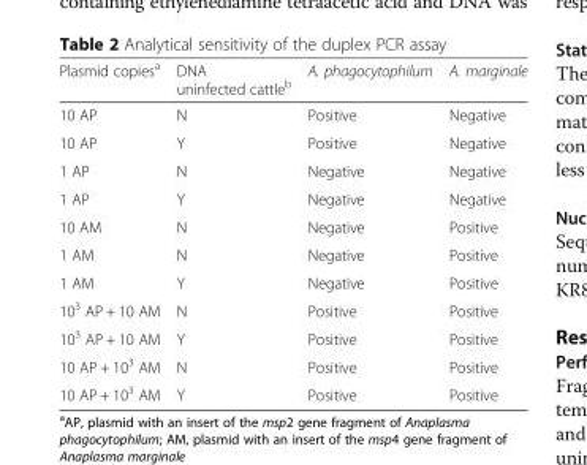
<table><thead><tr><td>Plasmid copies<sup>a</sup></td><td>DNA uninfected cattle<sup>b</sup></td><td>A. phagocytophilum</td><td>A. marginale</td></tr></thead><tbody><tr><td>10 AP</td><td>N</td><td>Positive</td><td>Negative</td></tr><tr><td>10 AP</td><td>Y</td><td>Positive</td><td>Negative</td></tr><tr><td>1 AP</td><td>N</td><td>Negative</td><td>Negative</td></tr><tr><td>1 AP</td><td>Y</td><td>Negative</td><td>Negative</td></tr><tr><td>10 AM</td><td>N</td><td>Negative</td><td>Positive</td></tr><tr><td>1 AM</td><td>N</td><td>Negative</td><td>Positive</td></tr><tr><td>1 AM</td><td>Y</td><td>Negative</td><td>Positive</td></tr><tr><td>10<sup>3</sup> AP + 10 AM</td><td>N</td><td>Positive</td><td>Positive</td></tr><tr><td>10<sup>3</sup> AP + 10 AM</td><td>Y</td><td>Positive</td><td>Positive</td></tr><tr><td>10 AP + 10<sup>3</sup> AM</td><td>N</td><td>Positive</td><td>Positive</td></tr><tr><td>10 AP + 10<sup>3</sup> AM</td><td>Y</td><td>Positive</td><td>Positive</td></tr></tbody></table>